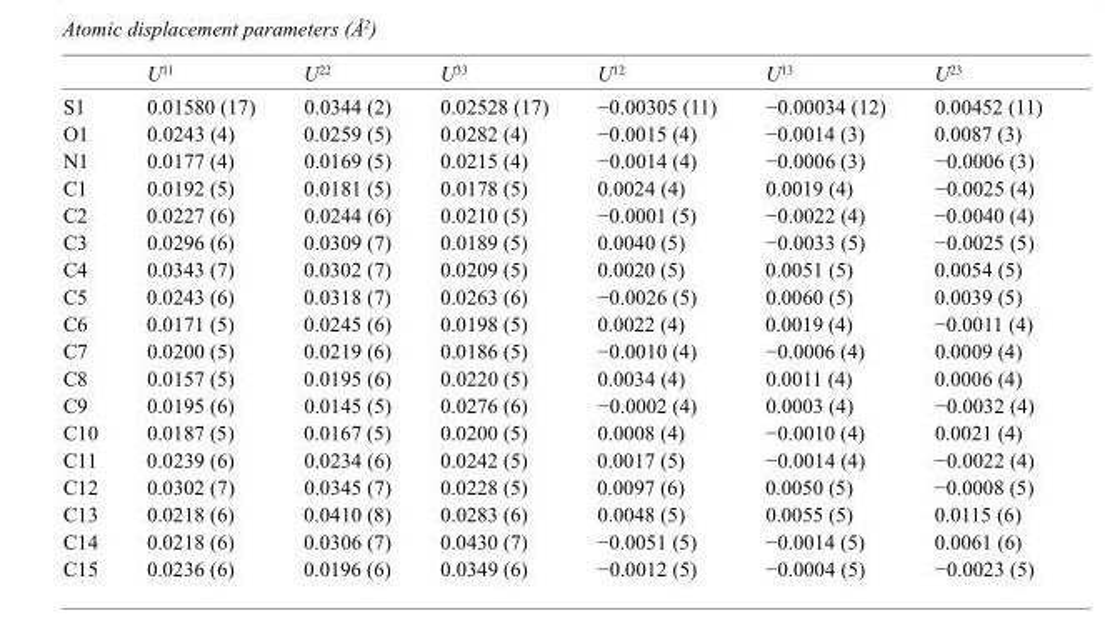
<table><thead><tr><td></td><td>U<sup>11</sup></td><td>U<sup>22</sup></td><td>U<sup>33</sup></td><td>U<sup>12</sup></td><td>U<sup>13</sup></td><td>U<sup>23</sup></td></tr></thead><tbody><tr><td>S1</td><td>0.01580 (17)</td><td>0.0344 (2)</td><td>0.02528 (17)</td><td>−0.00305 (11)</td><td>−0.00034 (12)</td><td>0.00452 (11)</td></tr><tr><td>O1</td><td>0.0243 (4)</td><td>0.0259 (5)</td><td>0.0282 (4)</td><td>−0.0015 (4)</td><td>−0.0014 (3)</td><td>0.0087 (3)</td></tr><tr><td>N1</td><td>0.0177 (4)</td><td>0.0169 (5)</td><td>0.0215 (4)</td><td>−0.0014 (4)</td><td>−0.0006 (3)</td><td>−0.0006 (3)</td></tr><tr><td>C1</td><td>0.0192 (5)</td><td>0.0181 (5)</td><td>0.0178 (5)</td><td>0.0024 (4)</td><td>0.0019 (4)</td><td>−0.0025 (4)</td></tr><tr><td>C2</td><td>0.0227 (6)</td><td>0.0244 (6)</td><td>0.0210 (5)</td><td>−0.0001 (5)</td><td>−0.0022 (4)</td><td>−0.0040 (4)</td></tr><tr><td>C3</td><td>0.0296 (6)</td><td>0.0309 (7)</td><td>0.0189 (5)</td><td>0.0040 (5)</td><td>−0.0033 (5)</td><td>−0.0025 (5)</td></tr><tr><td>C4</td><td>0.0343 (7)</td><td>0.0302 (7)</td><td>0.0209 (5)</td><td>0.0020 (5)</td><td>0.0051 (5)</td><td>0.0054 (5)</td></tr><tr><td>C5</td><td>0.0243 (6)</td><td>0.0318 (7)</td><td>0.0263 (6)</td><td>−0.0026 (5)</td><td>0.0060 (5)</td><td>0.0039 (5)</td></tr><tr><td>C6</td><td>0.0171 (5)</td><td>0.0245 (6)</td><td>0.0198 (5)</td><td>0.0022 (4)</td><td>0.0019 (4)</td><td>−0.0011 (4)</td></tr><tr><td>C7</td><td>0.0200 (5)</td><td>0.0219 (6)</td><td>0.0186 (5)</td><td>−0.0010 (4)</td><td>−0.0006 (4)</td><td>0.0009 (4)</td></tr><tr><td>C8</td><td>0.0157 (5)</td><td>0.0195 (6)</td><td>0.0220 (5)</td><td>0.0034 (4)</td><td>0.0011 (4)</td><td>0.0006 (4)</td></tr><tr><td>C9</td><td>0.0195 (6)</td><td>0.0145 (5)</td><td>0.0276 (6)</td><td>−0.0002 (4)</td><td>0.0003 (4)</td><td>−0.0032 (4)</td></tr><tr><td>C10</td><td>0.0187 (5)</td><td>0.0167 (5)</td><td>0.0200 (5)</td><td>0.0008 (4)</td><td>−0.0010 (4)</td><td>0.0021 (4)</td></tr><tr><td>C11</td><td>0.0239 (6)</td><td>0.0234 (6)</td><td>0.0242 (5)</td><td>0.0017 (5)</td><td>−0.0014 (4)</td><td>−0.0022 (4)</td></tr><tr><td>C12</td><td>0.0302 (7)</td><td>0.0345 (7)</td><td>0.0228 (5)</td><td>0.0097 (6)</td><td>0.0050 (5)</td><td>−0.0008 (5)</td></tr><tr><td>C13</td><td>0.0218 (6)</td><td>0.0410 (8)</td><td>0.0283 (6)</td><td>0.0048 (5)</td><td>0.0055 (5)</td><td>0.0115 (6)</td></tr><tr><td>C14</td><td>0.0218 (6)</td><td>0.0306 (7)</td><td>0.0430 (7)</td><td>−0.0051 (5)</td><td>−0.0014 (5)</td><td>0.0061 (6)</td></tr><tr><td>C15</td><td>0.0236 (6)</td><td>0.0196 (6)</td><td>0.0349 (6)</td><td>−0.0012 (5)</td><td>−0.0004 (5)</td><td>−0.0023 (5)</td></tr></tbody></table>